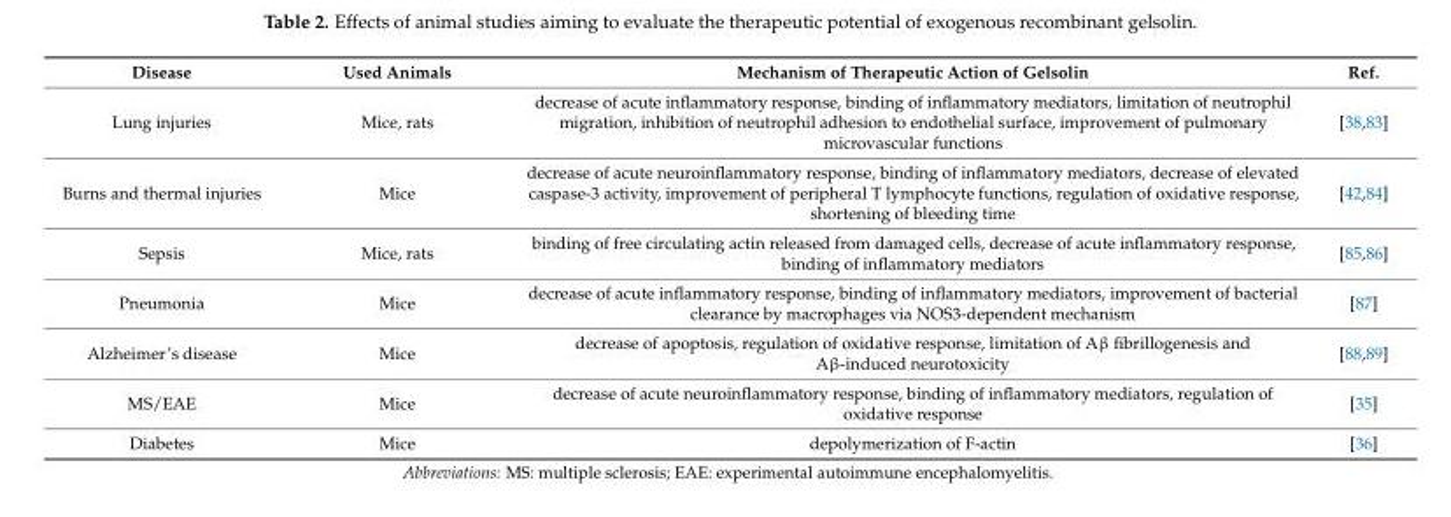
<table><thead><tr><td>Disease</td><td>Used Animals</td><td>Mechanism of Therapeutic Action of Gelsolin</td><td>Ref.</td></tr></thead><tbody><tr><td>Lung injuries</td><td>Mice, rats</td><td>decrease of acute inflammatory response, binding of inflammatory mediators, limitation of neutrophil migration, inhibition of neutrophil adhesion to endothelial surface, improvement of pulmonary microvascular functions</td><td>[38,83]</td></tr><tr><td>Burns and thermal injuries</td><td>Mice</td><td>decrease of acute neuroinflammatory response, binding of inflammatory mediators, decrease of elevated caspase-3 activity, improvement of peripheral T lymphocyte functions, regulation of oxidative response, shortening of bleeding time</td><td>[42,84]</td></tr><tr><td>Sepsis</td><td>Mice, rats</td><td>binding of free circulating actin released from damaged cells, decrease of acute inflammatory response, binding of inflammatory mediators</td><td>[85,86]</td></tr><tr><td>Pneumonia</td><td>Mice</td><td>decrease of acute inflammatory response, binding of inflammatory mediators, improvement of bacterial clearance by macrophages via NOS3-dependent mechanism</td><td>[87]</td></tr><tr><td>Alzheimer’s disease</td><td>Mice</td><td>decrease of apoptosis, regulation of oxidative response, limitation of Aβ fibrillogenesis and Aβ-induced neurotoxicity</td><td>[88,89]</td></tr><tr><td>MS/EAE</td><td>Mice</td><td>decrease of acute neuroinflammatory response, binding of inflammatory mediators, regulation of oxidative response</td><td>[35]</td></tr><tr><td>Diabetes</td><td>Mice</td><td>depolymerization of F-actin</td><td>[36]</td></tr></tbody></table>